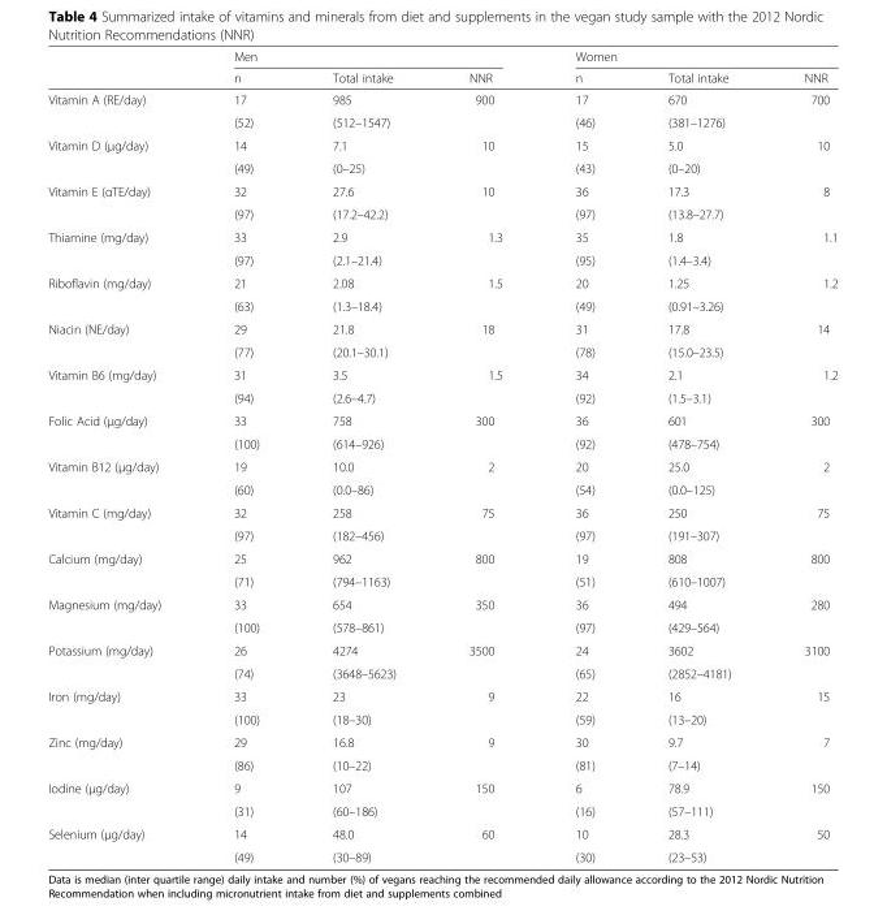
<table><thead><tr><td rowspan="2"></td><td colspan="3">Men</td><td colspan="3">Women</td></tr><tr><td>n</td><td>Total intake</td><td>NNR</td><td>n</td><td>Total intake</td><td>NNR</td></tr></thead><tbody><tr><td rowspan="2">Vitamin A (RE/day)</td><td>17</td><td>985</td><td rowspan="2">900</td><td>17</td><td>670</td><td rowspan="2">700</td></tr><tr><td>(52)</td><td>(512–1547)</td><td>(46)</td><td>(381–1276)</td></tr><tr><td rowspan="2">Vitamin D (μg/day)</td><td>14</td><td>7.1</td><td rowspan="2">10</td><td>15</td><td>5.0</td><td rowspan="2">10</td></tr><tr><td>(49)</td><td>(0–25)</td><td>(43)</td><td>(0–20)</td></tr><tr><td rowspan="2">Vitamin E (αTE/day)</td><td>32</td><td>27.6</td><td rowspan="2">10</td><td>36</td><td>17.3</td><td rowspan="2">8</td></tr><tr><td>(97)</td><td>(17.2–42.2)</td><td>(97)</td><td>(13.8–27.7)</td></tr><tr><td rowspan="2">Thiamine (mg/day)</td><td>33</td><td>2.9</td><td rowspan="2">1.3</td><td>35</td><td>1.8</td><td rowspan="2">1.1</td></tr><tr><td>(97)</td><td>(2.1–21.4)</td><td>(95)</td><td>(1.4–3.4)</td></tr><tr><td rowspan="2">Riboflavin (mg/day)</td><td>21</td><td>2.08</td><td rowspan="2">1.5</td><td>20</td><td>1.25</td><td rowspan="2">1.2</td></tr><tr><td>(63)</td><td>(1.3–18.4)</td><td>(49)</td><td>(0.91–3.26)</td></tr><tr><td rowspan="2">Niacin (NE/day)</td><td>29</td><td>21.8</td><td rowspan="2">18</td><td>31</td><td>17.8</td><td rowspan="2">14</td></tr><tr><td>(77)</td><td>(20.1–30.1)</td><td>(78)</td><td>(15.0–23.5)</td></tr><tr><td rowspan="2">Vitamin B6 (mg/day)</td><td>31</td><td>3.5</td><td rowspan="2">1.5</td><td>34</td><td>2.1</td><td rowspan="2">1.2</td></tr><tr><td>(94)</td><td>(2.6–4.7)</td><td>(92)</td><td>(1.5–3.1)</td></tr><tr><td rowspan="2">Folic Acid (μg/day)</td><td>33</td><td>758</td><td rowspan="2">300</td><td>36</td><td>601</td><td rowspan="2">300</td></tr><tr><td>(100)</td><td>(614–926)</td><td>(92)</td><td>(478–754)</td></tr><tr><td rowspan="2">Vitamin B12 (μg/day)</td><td>19</td><td>10.0</td><td rowspan="2">2</td><td>20</td><td>25.0</td><td rowspan="2">2</td></tr><tr><td>(60)</td><td>(0.0–86)</td><td>(54)</td><td>(0.0–125)</td></tr><tr><td rowspan="2">Vitamin C (mg/day)</td><td>32</td><td>258</td><td rowspan="2">75</td><td>36</td><td>250</td><td rowspan="2">75</td></tr><tr><td>(97)</td><td>(182–456)</td><td>(97)</td><td>(191–307)</td></tr><tr><td rowspan="2">Calcium (mg/day)</td><td>25</td><td>962</td><td rowspan="2">800</td><td>19</td><td>808</td><td rowspan="2">800</td></tr><tr><td>(71)</td><td>(794–1163)</td><td>(51)</td><td>(610–1007)</td></tr><tr><td rowspan="2">Magnesium (mg/day)</td><td>33</td><td>654</td><td rowspan="2">350</td><td>36</td><td>494</td><td rowspan="2">280</td></tr><tr><td>(100)</td><td>(578–861)</td><td>(97)</td><td>(429–564)</td></tr><tr><td rowspan="2">Potassium (mg/day)</td><td>26</td><td>4274</td><td rowspan="2">3500</td><td>24</td><td>3602</td><td rowspan="2">3100</td></tr><tr><td>(74)</td><td>(3648–5623)</td><td>(65)</td><td>(2852–4181)</td></tr><tr><td rowspan="2">Iron (mg/day)</td><td>33</td><td>23</td><td rowspan="2">9</td><td>22</td><td>16</td><td rowspan="2">15</td></tr><tr><td>(100)</td><td>(18–30)</td><td>(59)</td><td>(13–20)</td></tr><tr><td rowspan="2">Zinc (mg/day)</td><td>29</td><td>16.8</td><td rowspan="2">9</td><td>30</td><td>9.7</td><td rowspan="2">7</td></tr><tr><td>(86)</td><td>(10–22)</td><td>(81)</td><td>(7–14)</td></tr><tr><td rowspan="2">Iodine (μg/day)</td><td>9</td><td>107</td><td rowspan="2">150</td><td>6</td><td>78.9</td><td rowspan="2">150</td></tr><tr><td>(31)</td><td>(60–186)</td><td>(16)</td><td>(57–111)</td></tr><tr><td rowspan="2">Selenium (μg/day)</td><td>14</td><td>48.0</td><td rowspan="2">60</td><td>10</td><td>28.3</td><td rowspan="2">50</td></tr><tr><td>(49)</td><td>(30–89)</td><td>(30)</td><td>(23–53)</td></tr></tbody></table>